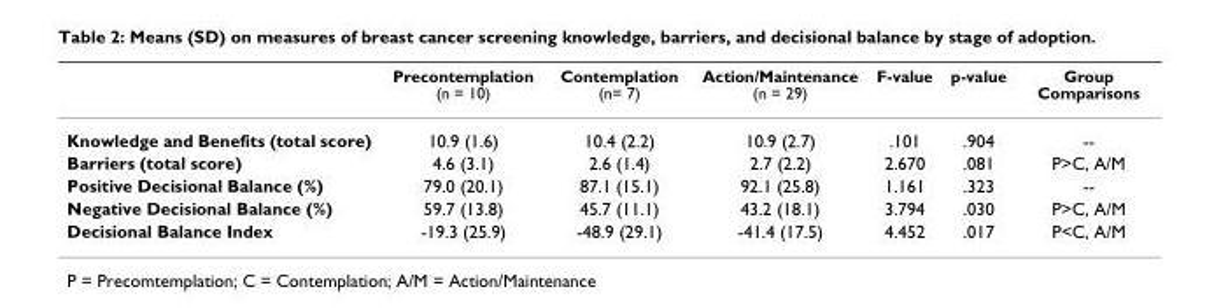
<table><thead><tr><td></td><td>Precontemplation (n = 10)</td><td>Contemplation (n= 7)</td><td>Action/Maintenance (n = 29)</td><td>F-value</td><td>p-value</td><td>Group Comparisons</td></tr></thead><tbody><tr><td>Knowledge and Benefits (total score)</td><td>10.9 (1.6)</td><td>10.4 (2.2)</td><td>10.9 (2.7)</td><td>.101</td><td>.904</td><td>--</td></tr><tr><td>Barriers (total score)</td><td>4.6 (3.1)</td><td>2.6 (1.4)</td><td>2.7 (2.2)</td><td>2.670</td><td>.081</td><td>P&gt;C, A/M</td></tr><tr><td>Positive Decisional Balance (%)</td><td>79.0 (20.1)</td><td>87.1 (15.1)</td><td>92.1 (25.8)</td><td>1.161</td><td>.323</td><td>--</td></tr><tr><td>Negative Decisional Balance (%)</td><td>59.7 (13.8)</td><td>45.7 (11.1)</td><td>43.2 (18.1)</td><td>3.794</td><td>.030</td><td>P&gt;C, A/M</td></tr><tr><td>Decisional Balance Index</td><td>-19.3 (25.9)</td><td>-48.9 (29.1)</td><td>-41.4 (17.5)</td><td>4.452</td><td>.017</td><td>P&lt;C, A/M</td></tr></tbody></table>